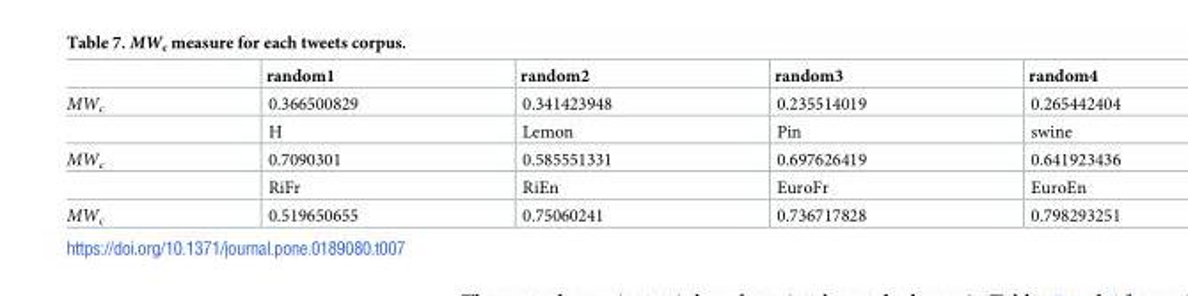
<table><thead><tr><td></td><td>random1</td><td>random2</td><td>random3</td><td>random4</td></tr></thead><tbody><tr><td rowspan="2">MW<sub>c</sub></td><td>0.366500829</td><td>0.341423948</td><td>0.235514019</td><td>0.265442404</td></tr><tr><td>H</td><td>Lemon</td><td>Pin</td><td>swine</td></tr><tr><td rowspan="2">MW<sub>c</sub></td><td>0.7090301</td><td>0.585551331</td><td>0.697626419</td><td>0.641923436</td></tr><tr><td>RiFr</td><td>RiEn</td><td>EuroFr</td><td>EuroEn</td></tr><tr><td>MW<sub>c</sub></td><td>0.519650655</td><td>0.75060241</td><td>0.736717828</td><td>0.798293251</td></tr></tbody></table>